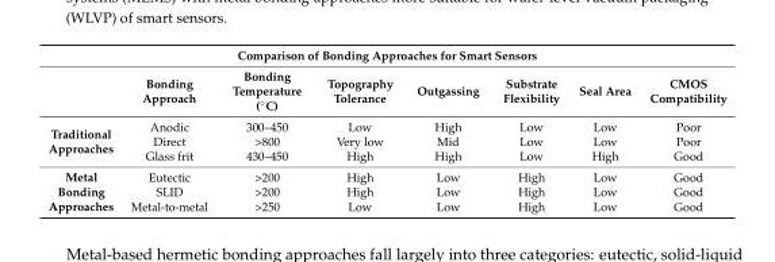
<table><thead><tr><td colspan="8">Comparison of Bonding Approaches for Smart Sensors</td></tr><tr><td></td><td>Bonding Approach</td><td>Bonding Temperature (◦C)</td><td>Topography Tolerance</td><td>Outgassing</td><td>Substrate Flexibility</td><td>Seal Area</td><td>CMOS Compatibility</td></tr></thead><tbody><tr><td rowspan="3">Traditional Approaches</td><td>Anodic</td><td>300–450</td><td>Low</td><td>High</td><td>Low</td><td>Low</td><td>Poor</td></tr><tr><td>Direct</td><td>&gt;800</td><td>Very low</td><td>Mid</td><td>Low</td><td>Low</td><td>Poor</td></tr><tr><td>Glass frit</td><td>430–450</td><td>High</td><td>High</td><td>Low</td><td>High</td><td>Good</td></tr><tr><td rowspan="3">Metal Bonding Approaches</td><td>Eutectic</td><td>&gt;200</td><td>High</td><td>Low</td><td>High</td><td>Low</td><td>Good</td></tr><tr><td>SLID</td><td>&gt;200</td><td>High</td><td>Low</td><td>High</td><td>Low</td><td>Good</td></tr><tr><td>Metal-to-metal</td><td>&gt;250</td><td>Low</td><td>Low</td><td>High</td><td>Low</td><td>Good</td></tr></tbody></table>